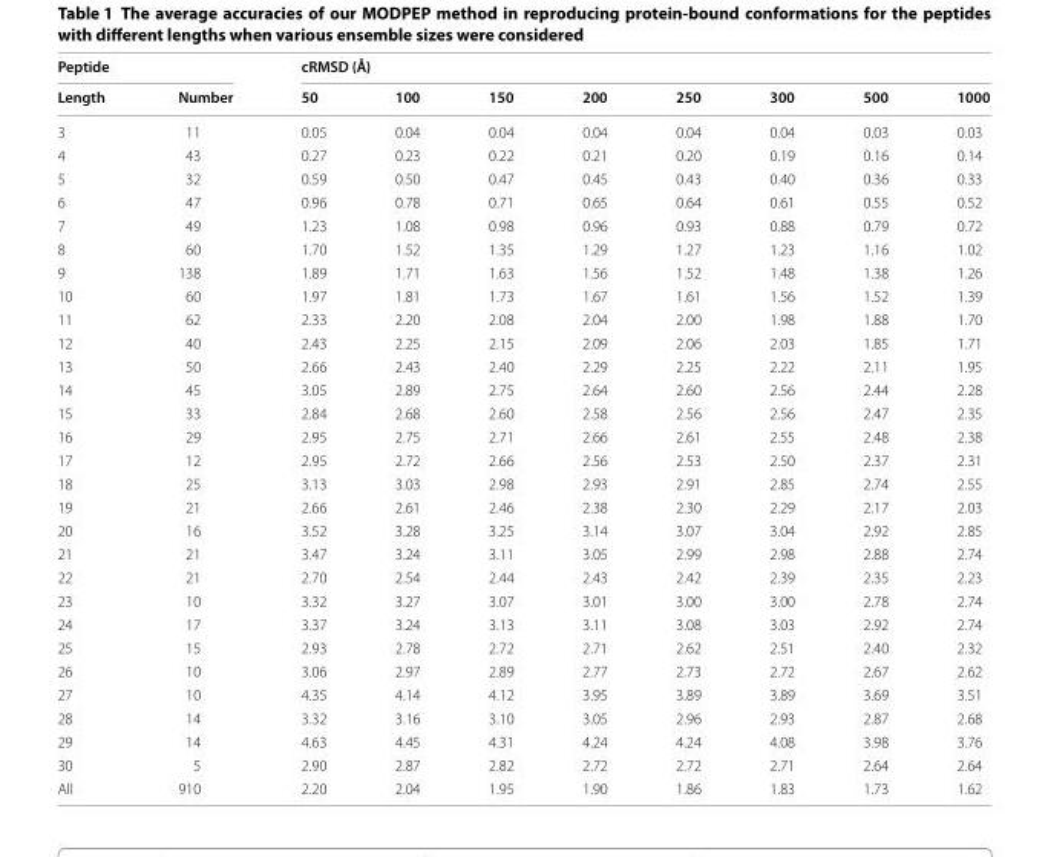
<table><thead><tr><td colspan="2">Peptide</td><td colspan="8">cRMSD (Å)</td></tr><tr><td>Length</td><td>Number</td><td>50</td><td>100</td><td>150</td><td>200</td><td>250</td><td>300</td><td>500</td><td>1000</td></tr></thead><tbody><tr><td>3</td><td>11</td><td>0.05</td><td>0.04</td><td>0.04</td><td>0.04</td><td>0.04</td><td>0.04</td><td>0.03</td><td>0.03</td></tr><tr><td>4</td><td>43</td><td>0.27</td><td>0.23</td><td>0.22</td><td>0.21</td><td>0.20</td><td>0.19</td><td>0.16</td><td>0.14</td></tr><tr><td>5</td><td>32</td><td>0.59</td><td>0.50</td><td>0.47</td><td>0.45</td><td>0.43</td><td>0.40</td><td>0.36</td><td>0.33</td></tr><tr><td>6</td><td>47</td><td>0.96</td><td>0.78</td><td>0.71</td><td>0.65</td><td>0.64</td><td>0.61</td><td>0.55</td><td>0.52</td></tr><tr><td>7</td><td>49</td><td>1.23</td><td>1.08</td><td>0.98</td><td>0.96</td><td>0.93</td><td>0.88</td><td>0.79</td><td>0.72</td></tr><tr><td>8</td><td>60</td><td>1.70</td><td>1.52</td><td>1.35</td><td>1.29</td><td>1.27</td><td>1.23</td><td>1.16</td><td>1.02</td></tr><tr><td>9</td><td>138</td><td>1.89</td><td>1.71</td><td>1.63</td><td>1.56</td><td>1.52</td><td>1.48</td><td>1.38</td><td>1.26</td></tr><tr><td>10</td><td>60</td><td>1.97</td><td>1.81</td><td>1.73</td><td>1.67</td><td>1.61</td><td>1.56</td><td>1.52</td><td>1.39</td></tr><tr><td>11</td><td>62</td><td>2.33</td><td>2.20</td><td>2.08</td><td>2.04</td><td>2.00</td><td>1.98</td><td>1.88</td><td>1.70</td></tr><tr><td>12</td><td>40</td><td>2.43</td><td>2.25</td><td>2.15</td><td>2.09</td><td>2.06</td><td>2.03</td><td>1.85</td><td>1.71</td></tr><tr><td>13</td><td>50</td><td>2.66</td><td>2.43</td><td>2.40</td><td>2.29</td><td>2.25</td><td>2.22</td><td>2.11</td><td>1.95</td></tr><tr><td>14</td><td>45</td><td>3.05</td><td>2.89</td><td>2.75</td><td>2.64</td><td>2.60</td><td>2.56</td><td>2.44</td><td>2.28</td></tr><tr><td>15</td><td>33</td><td>2.84</td><td>2.68</td><td>2.60</td><td>2.58</td><td>2.56</td><td>2.56</td><td>2.47</td><td>2.35</td></tr><tr><td>16</td><td>29</td><td>2.95</td><td>2.75</td><td>2.71</td><td>2.66</td><td>2.61</td><td>2.55</td><td>2.48</td><td>2.38</td></tr><tr><td>17</td><td>12</td><td>2.95</td><td>2.72</td><td>2.66</td><td>2.56</td><td>2.53</td><td>2.50</td><td>2.37</td><td>2.31</td></tr><tr><td>18</td><td>25</td><td>3.13</td><td>3.03</td><td>2.98</td><td>2.93</td><td>2.91</td><td>2.85</td><td>2.74</td><td>2.55</td></tr><tr><td>19</td><td>21</td><td>2.66</td><td>2.61</td><td>2.46</td><td>2.38</td><td>2.30</td><td>2.29</td><td>2.17</td><td>2.03</td></tr><tr><td>20</td><td>16</td><td>3.52</td><td>3.28</td><td>3.25</td><td>3.14</td><td>3.07</td><td>3.04</td><td>2.92</td><td>2.85</td></tr><tr><td>21</td><td>21</td><td>3.47</td><td>3.24</td><td>3.11</td><td>3.05</td><td>2.99</td><td>2.98</td><td>2.88</td><td>2.74</td></tr><tr><td>22</td><td>21</td><td>2.70</td><td>2.54</td><td>2.44</td><td>2.43</td><td>2.42</td><td>2.39</td><td>2.35</td><td>2.23</td></tr><tr><td>23</td><td>10</td><td>3.32</td><td>3.27</td><td>3.07</td><td>3.01</td><td>3.00</td><td>3.00</td><td>2.78</td><td>2.74</td></tr><tr><td>24</td><td>17</td><td>3.37</td><td>3.24</td><td>3.13</td><td>3.11</td><td>3.08</td><td>3.03</td><td>2.92</td><td>2.74</td></tr><tr><td>25</td><td>15</td><td>2.93</td><td>2.78</td><td>2.72</td><td>2.71</td><td>2.62</td><td>2.51</td><td>2.40</td><td>2.32</td></tr><tr><td>26</td><td>10</td><td>3.06</td><td>2.97</td><td>2.89</td><td>2.77</td><td>2.73</td><td>2.72</td><td>2.67</td><td>2.62</td></tr><tr><td>27</td><td>10</td><td>4.35</td><td>4.14</td><td>4.12</td><td>3.95</td><td>3.89</td><td>3.89</td><td>3.69</td><td>3.51</td></tr><tr><td>28</td><td>14</td><td>3.32</td><td>3.16</td><td>3.10</td><td>3.05</td><td>2.96</td><td>2.93</td><td>2.87</td><td>2.68</td></tr><tr><td>29</td><td>14</td><td>4.63</td><td>4.45</td><td>4.31</td><td>4.24</td><td>4.24</td><td>4.08</td><td>3.98</td><td>3.76</td></tr><tr><td>30</td><td>5</td><td>2.90</td><td>2.87</td><td>2.82</td><td>2.72</td><td>2.72</td><td>2.71</td><td>2.64</td><td>2.64</td></tr><tr><td>All</td><td>910</td><td>2.20</td><td>2.04</td><td>1.95</td><td>1.90</td><td>1.86</td><td>1.83</td><td>1.73</td><td>1.62</td></tr></tbody></table>